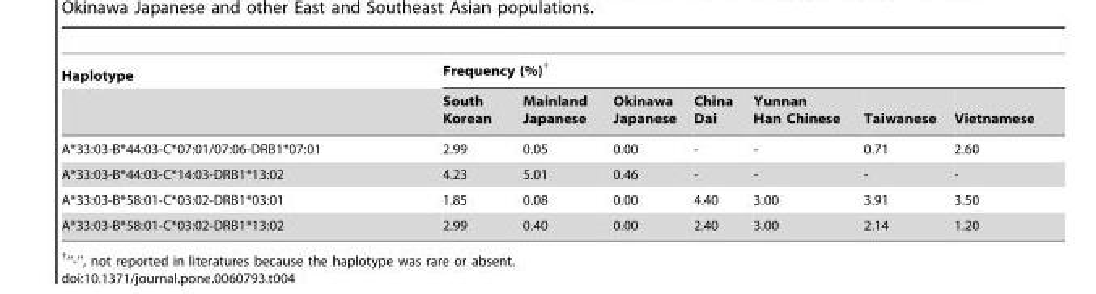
<table><thead><tr><td rowspan="2">Haplotype</td><td colspan="7">Frequency (%)†</td></tr><tr><td>South Korean</td><td>Mainland Japanese</td><td>Okinawa Japanese</td><td>China Dai</td><td>Yunnan Han Chinese</td><td>Taiwanese</td><td>Vietnamese</td></tr></thead><tbody><tr><td>A*33:03-B*44:03-C*07:01/07:06-DRB1*07:01</td><td>2.99</td><td>0.05</td><td>0.00</td><td>-</td><td>-</td><td>0.71</td><td>2.60</td></tr><tr><td>A*33:03-B*44:03-C*14:03-DRB1*13:02</td><td>4.23</td><td>5.01</td><td>0.46</td><td>-</td><td>-</td><td>-</td><td>-</td></tr><tr><td>A*33:03-B*58:01-C*03:02-DRB1*03:01</td><td>1.85</td><td>0.08</td><td>0.00</td><td>4.40</td><td>3.00</td><td>3.91</td><td>3.50</td></tr><tr><td>A*33:03-B*58:01-C*03:02-DRB1*13:02</td><td>2.99</td><td>0.40</td><td>0.00</td><td>2.40</td><td>3.00</td><td>2.14</td><td>1.20</td></tr></tbody></table>